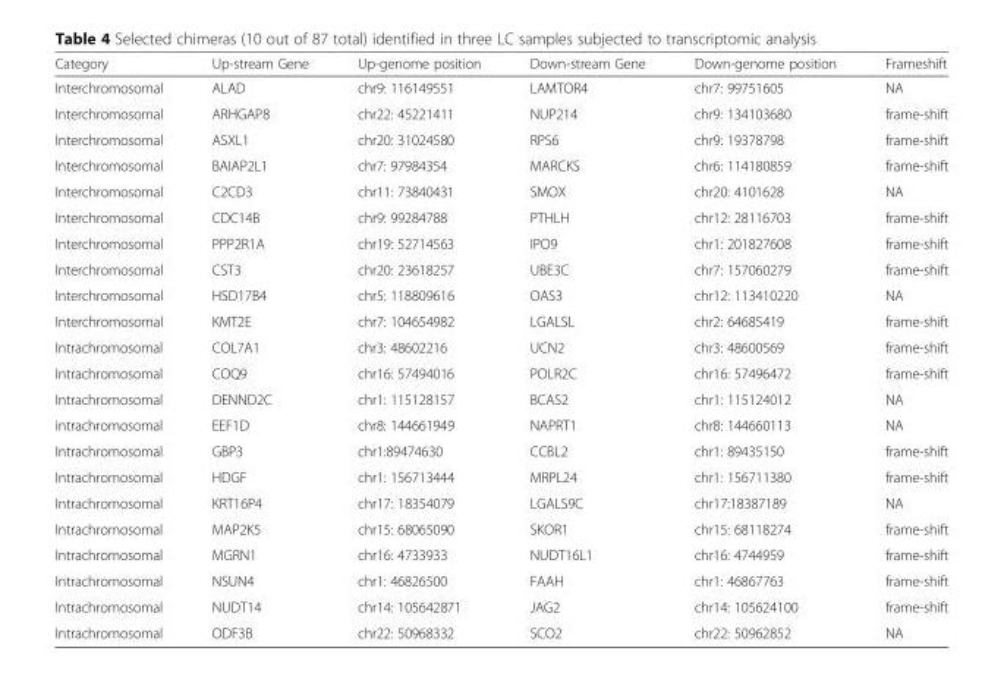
<table><thead><tr><td>Category</td><td>Up-stream Gene</td><td>Up-genome position</td><td>Down-stream Gene</td><td>Down-genome position</td><td>Frameshift</td></tr></thead><tbody><tr><td>Interchromosomal</td><td>ALAD</td><td>chr9: 116149551</td><td>LAMTOR4</td><td>chr7: 99751605</td><td>NA</td></tr><tr><td>Interchromosomal</td><td>ARHGAP8</td><td>chr22: 45221411</td><td>NUP214</td><td>chr9: 134103680</td><td>frame-shift</td></tr><tr><td>Interchromosomal</td><td>ASXL1</td><td>chr20: 31024580</td><td>RPS6</td><td>chr9: 19378798</td><td>frame-shift</td></tr><tr><td>Interchromosomal</td><td>BAIAP2L1</td><td>chr7: 97984354</td><td>MARCKS</td><td>chr6: 114180859</td><td>frame-shift</td></tr><tr><td>Interchromosomal</td><td>C2CD3</td><td>chr11: 73840431</td><td>SMOX</td><td>chr20: 4101628</td><td>NA</td></tr><tr><td>Interchromosomal</td><td>CDC14B</td><td>chr9: 99284788</td><td>PTHLH</td><td>chr12: 28116703</td><td>frame-shift</td></tr><tr><td>Interchromosomal</td><td>PPP2R1A</td><td>chr19: 52714563</td><td>IPO9</td><td>chr1: 201827608</td><td>frame-shift</td></tr><tr><td>Interchromosomal</td><td>CST3</td><td>chr20: 23618257</td><td>UBE3C</td><td>chr7: 157060279</td><td>frame-shift</td></tr><tr><td>Interchromosomal</td><td>HSD17B4</td><td>chr5: 118809616</td><td>OAS3</td><td>chr12: 113410220</td><td>NA</td></tr><tr><td>Interchromosomal</td><td>KMT2E</td><td>chr7: 104654982</td><td>LGALSL</td><td>chr2: 64685419</td><td>frame-shift</td></tr><tr><td>Intrachromosomal</td><td>COL7A1</td><td>chr3: 48602216</td><td>UCN2</td><td>chr3: 48600569</td><td>frame-shift</td></tr><tr><td>Intrachromosomal</td><td>COQ9</td><td>chr16: 57494016</td><td>POLR2C</td><td>chr16: 57496472</td><td>frame-shift</td></tr><tr><td>Intrachromosomal</td><td>DENND2C</td><td>chr1: 115128157</td><td>BCAS2</td><td>chr1: 115124012</td><td>NA</td></tr><tr><td>intrachromosomal</td><td>EEF1D</td><td>chr8: 144661949</td><td>NAPRT1</td><td>chr8: 144660113</td><td>NA</td></tr><tr><td>Intrachromosomal</td><td>GBP3</td><td>chr1:89474630</td><td>CCBL2</td><td>chr1: 89435150</td><td>frame-shift</td></tr><tr><td>Intrachromosomal</td><td>HDGF</td><td>chr1: 156713444</td><td>MRPL24</td><td>chr1: 156711380</td><td>frame-shift</td></tr><tr><td>Intrachromosomal</td><td>KRT16P4</td><td>chr17: 18354079</td><td>LGALS9C</td><td>chr17:18387189</td><td>NA</td></tr><tr><td>Intrachromosomal</td><td>MAP2K5</td><td>chr15: 68065090</td><td>SKOR1</td><td>chr15: 68118274</td><td>frame-shift</td></tr><tr><td>Intrachromosomal</td><td>MGRN1</td><td>chr16: 4733933</td><td>NUDT16L1</td><td>chr16: 4744959</td><td>frame-shift</td></tr><tr><td>Intrachromosomal</td><td>NSUN4</td><td>chr1: 46826500</td><td>FAAH</td><td>chr1: 46867763</td><td>frame-shift</td></tr><tr><td>Intrachromosomal</td><td>NUDT14</td><td>chr14: 105642871</td><td>JAG2</td><td>chr14: 105624100</td><td>frame-shift</td></tr><tr><td>Intrachromosomal</td><td>ODF3B</td><td>chr22: 50968332</td><td>SCO2</td><td>chr22: 50962852</td><td>NA</td></tr></tbody></table>